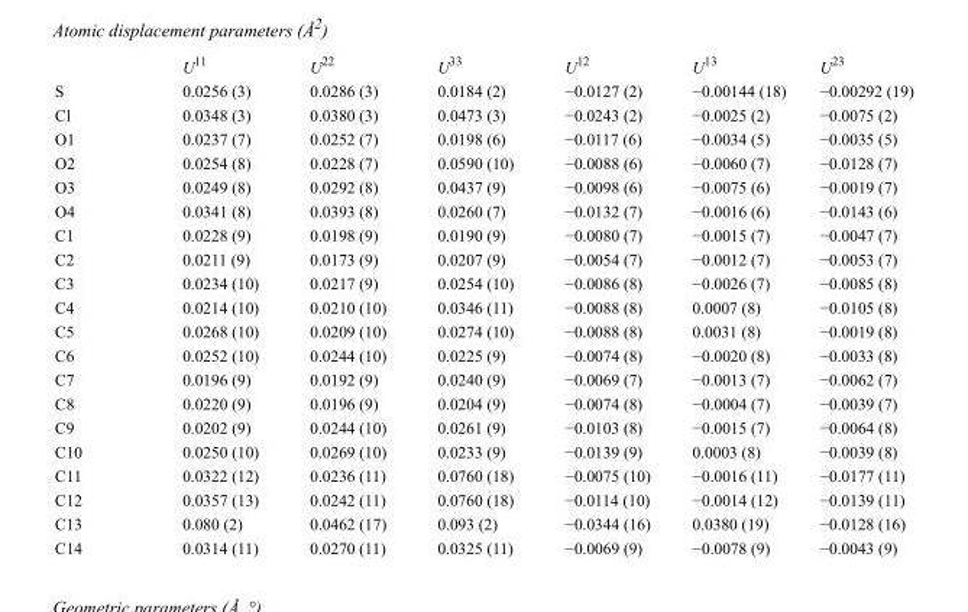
<table><thead><tr><td></td><td>U<sup>11</sup></td><td>U<sup>22</sup></td><td>U<sup>33</sup></td><td>U<sup>12</sup></td><td>U<sup>13</sup></td><td>U<sup>23</sup></td></tr></thead><tbody><tr><td>S</td><td>0.0256 (3)</td><td>0.0286 (3)</td><td>0.0184 (2)</td><td>−0.0127 (2)</td><td>−0.00144 (18)</td><td>−0.00292 (19)</td></tr><tr><td>Cl</td><td>0.0348 (3)</td><td>0.0380 (3)</td><td>0.0473 (3)</td><td>−0.0243 (2)</td><td>−0.0025 (2)</td><td>−0.0075 (2)</td></tr><tr><td>O1</td><td>0.0237 (7)</td><td>0.0252 (7)</td><td>0.0198 (6)</td><td>−0.0117 (6)</td><td>−0.0034 (5)</td><td>−0.0035 (5)</td></tr><tr><td>O2</td><td>0.0254 (8)</td><td>0.0228 (7)</td><td>0.0590 (10)</td><td>−0.0088 (6)</td><td>−0.0060 (7)</td><td>−0.0128 (7)</td></tr><tr><td>O3</td><td>0.0249 (8)</td><td>0.0292 (8)</td><td>0.0437 (9)</td><td>−0.0098 (6)</td><td>−0.0075 (6)</td><td>−0.0019 (7)</td></tr><tr><td>O4</td><td>0.0341 (8)</td><td>0.0393 (8)</td><td>0.0260 (7)</td><td>−0.0132 (7)</td><td>−0.0016 (6)</td><td>−0.0143 (6)</td></tr><tr><td>C1</td><td>0.0228 (9)</td><td>0.0198 (9)</td><td>0.0190 (9)</td><td>−0.0080 (7)</td><td>−0.0015 (7)</td><td>−0.0047 (7)</td></tr><tr><td>C2</td><td>0.0211 (9)</td><td>0.0173 (9)</td><td>0.0207 (9)</td><td>−0.0054 (7)</td><td>−0.0012 (7)</td><td>−0.0053 (7)</td></tr><tr><td>C3</td><td>0.0234 (10)</td><td>0.0217 (9)</td><td>0.0254 (10)</td><td>−0.0086 (8)</td><td>−0.0026 (7)</td><td>−0.0085 (8)</td></tr><tr><td>C4</td><td>0.0214 (10)</td><td>0.0210 (10)</td><td>0.0346 (11)</td><td>−0.0088 (8)</td><td>0.0007 (8)</td><td>−0.0105 (8)</td></tr><tr><td>C5</td><td>0.0268 (10)</td><td>0.0209 (10)</td><td>0.0274 (10)</td><td>−0.0088 (8)</td><td>0.0031 (8)</td><td>−0.0019 (8)</td></tr><tr><td>C6</td><td>0.0252 (10)</td><td>0.0244 (10)</td><td>0.0225 (9)</td><td>−0.0074 (8)</td><td>−0.0020 (8)</td><td>−0.0033 (8)</td></tr><tr><td>C7</td><td>0.0196 (9)</td><td>0.0192 (9)</td><td>0.0240 (9)</td><td>−0.0069 (7)</td><td>−0.0013 (7)</td><td>−0.0062 (7)</td></tr><tr><td>C8</td><td>0.0220 (9)</td><td>0.0196 (9)</td><td>0.0204 (9)</td><td>−0.0074 (8)</td><td>−0.0004 (7)</td><td>−0.0039 (7)</td></tr><tr><td>C9</td><td>0.0202 (9)</td><td>0.0244 (10)</td><td>0.0261 (9)</td><td>−0.0103 (8)</td><td>−0.0015 (7)</td><td>−0.0064 (8)</td></tr><tr><td>C10</td><td>0.0250 (10)</td><td>0.0269 (10)</td><td>0.0233 (9)</td><td>−0.0139 (9)</td><td>0.0003 (8)</td><td>−0.0039 (8)</td></tr><tr><td>C11</td><td>0.0322 (12)</td><td>0.0236 (11)</td><td>0.0760 (18)</td><td>−0.0075 (10)</td><td>−0.0016 (11)</td><td>−0.0177 (11)</td></tr><tr><td>C12</td><td>0.0357 (13)</td><td>0.0242 (11)</td><td>0.0760 (18)</td><td>−0.0114 (10)</td><td>−0.0014 (12)</td><td>−0.0139 (11)</td></tr><tr><td>C13</td><td>0.080 (2)</td><td>0.0462 (17)</td><td>0.093 (2)</td><td>−0.0344 (16)</td><td>0.0380 (19)</td><td>−0.0128 (16)</td></tr><tr><td>C14</td><td>0.0314 (11)</td><td>0.0270 (11)</td><td>0.0325 (11)</td><td>−0.0069 (9)</td><td>−0.0078 (9)</td><td>−0.0043 (9)</td></tr></tbody></table>